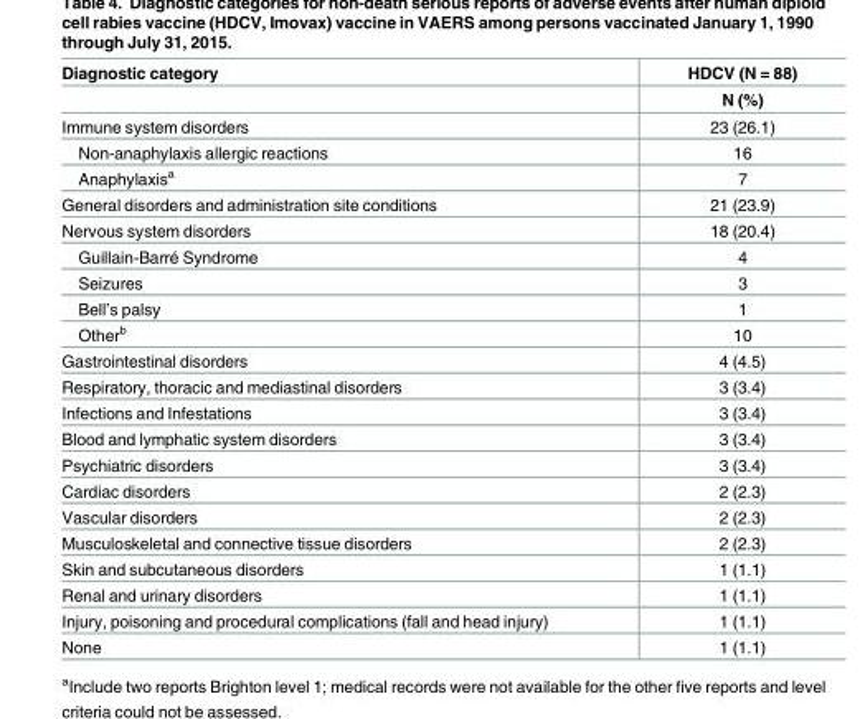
<table><thead><tr><td rowspan="2">Diagnostic category</td><td rowspan="2">HDCV (N = 88) N (%)</td></tr><tr></tr></thead><tbody><tr><td>Immune system disorders</td><td>23 (26.1)</td></tr><tr><td>Non-anaphylaxis allergic reactions</td><td>16</td></tr><tr><td>Anaphylaxis<sup>a</sup></td><td>7</td></tr><tr><td>General disorders and administration site conditions</td><td>21 (23.9)</td></tr><tr><td>Nervous system disorders</td><td>18 (20.4)</td></tr><tr><td>Guillain-Barré Syndrome</td><td>4</td></tr><tr><td>Seizures</td><td>3</td></tr><tr><td>Bell’s palsy</td><td>1</td></tr><tr><td>Other<sup>b</sup></td><td>10</td></tr><tr><td>Gastrointestinal disorders</td><td>4 (4.5)</td></tr><tr><td>Respiratory, thoracic and mediastinal disorders</td><td>3 (3.4)</td></tr><tr><td>Infections and Infestations</td><td>3 (3.4)</td></tr><tr><td>Blood and lymphatic system disorders</td><td>3 (3.4)</td></tr><tr><td>Psychiatric disorders</td><td>3 (3.4)</td></tr><tr><td>Cardiac disorders</td><td>2 (2.3)</td></tr><tr><td>Vascular disorders</td><td>2 (2.3)</td></tr><tr><td>Musculoskeletal and connective tissue disorders</td><td>2 (2.3)</td></tr><tr><td>Skin and subcutaneous disorders</td><td>1 (1.1)</td></tr><tr><td>Renal and urinary disorders</td><td>1 (1.1)</td></tr><tr><td>Injury, poisoning and procedural complications (fall and head injury)</td><td>1 (1.1)</td></tr><tr><td>None</td><td>1 (1.1)</td></tr></tbody></table>